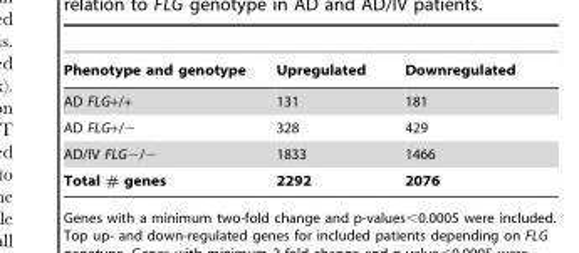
<table><thead><tr><td>Phenotype and genotype</td><td>Upregulated</td><td>Downregulated</td></tr></thead><tbody><tr><td>AD FLG+/+</td><td>131</td><td>181</td></tr><tr><td>AD FLG+/−</td><td>328</td><td>429</td></tr><tr><td>AD/IV FLG−/−</td><td>1833</td><td>1466</td></tr><tr><td>Total # genes</td><td>2292</td><td>2076</td></tr></tbody></table>